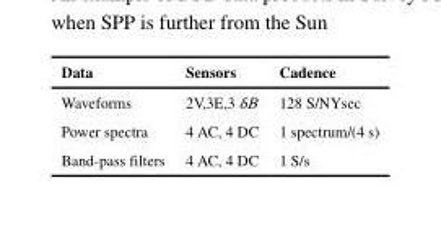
<table><thead><tr><td>Data</td><td>Sensors</td><td>Cadence</td></tr></thead><tbody><tr><td>Waveforms</td><td>2V,3E,3 δB</td><td>128 S/NYsec</td></tr><tr><td>Power spectra</td><td>4 AC, 4 DC</td><td>1 spectrum/(4 s)</td></tr><tr><td>Band-pass filters</td><td>4 AC, 4 DC</td><td>1 S/s</td></tr></tbody></table>